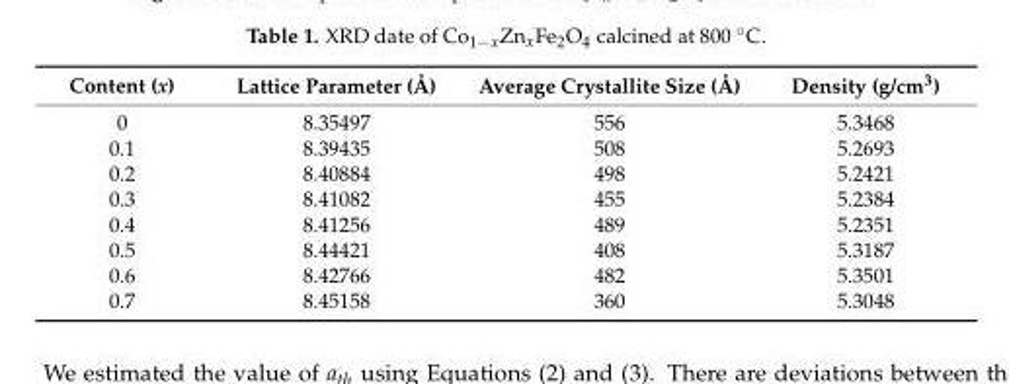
<table><thead><tr><td>Content (x)</td><td>Lattice Parameter (Å)</td><td>Average Crystallite Size (Å)</td><td>Density (g/cm<sup>3</sup>)</td></tr></thead><tbody><tr><td>0</td><td>8.35497</td><td>556</td><td>5.3468</td></tr><tr><td>0.1</td><td>8.39435</td><td>508</td><td>5.2693</td></tr><tr><td>0.2</td><td>8.40884</td><td>498</td><td>5.2421</td></tr><tr><td>0.3</td><td>8.41082</td><td>455</td><td>5.2384</td></tr><tr><td>0.4</td><td>8.41256</td><td>489</td><td>5.2351</td></tr><tr><td>0.5</td><td>8.44421</td><td>408</td><td>5.3187</td></tr><tr><td>0.6</td><td>8.42766</td><td>482</td><td>5.3501</td></tr><tr><td>0.7</td><td>8.45158</td><td>360</td><td>5.3048</td></tr></tbody></table>